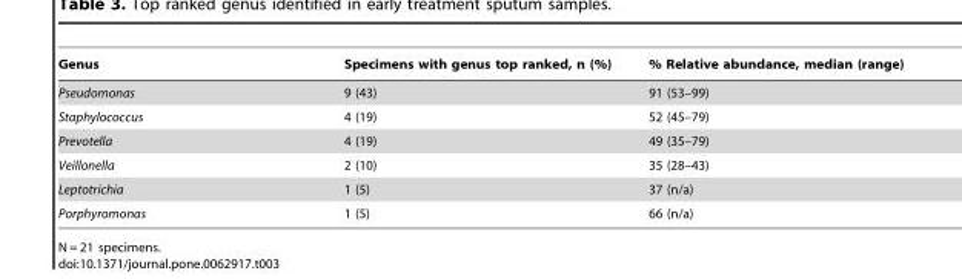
<table><thead><tr><td>Genus</td><td>Specimens with genus top ranked, n (%)</td><td>% Relative abundance, median (range)</td></tr></thead><tbody><tr><td>Pseudomonas</td><td>9 (43)</td><td>91 (53–99)</td></tr><tr><td>Staphylococcus</td><td>4 (19)</td><td>52 (45–79)</td></tr><tr><td>Prevotella</td><td>4 (19)</td><td>49 (35–79)</td></tr><tr><td>Veillonella</td><td>2 (10)</td><td>35 (28–43)</td></tr><tr><td>Leptotrichia</td><td>1 (5)</td><td>37 (n/a)</td></tr><tr><td>Porphyromonas</td><td>1 (5)</td><td>66 (n/a)</td></tr></tbody></table>